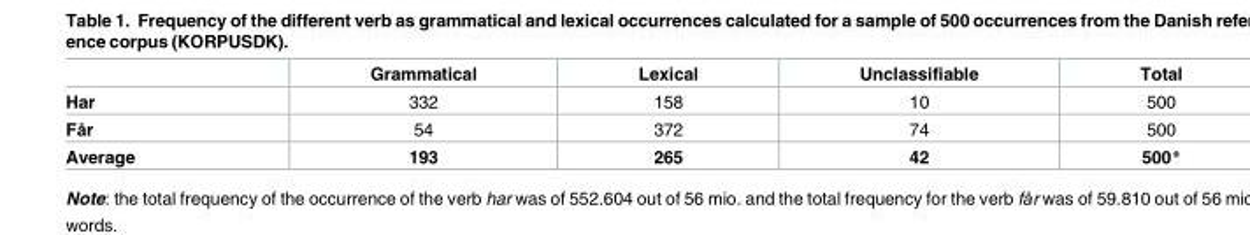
<table><thead><tr><td></td><td>Grammatical</td><td>Lexical</td><td>Unclassifiable</td><td>Total</td></tr></thead><tbody><tr><td>Har</td><td>332</td><td>158</td><td>10</td><td>500</td></tr><tr><td>Får</td><td>54</td><td>372</td><td>74</td><td>500</td></tr><tr><td>Average</td><td>193</td><td>265</td><td>42</td><td>500*</td></tr></tbody></table>